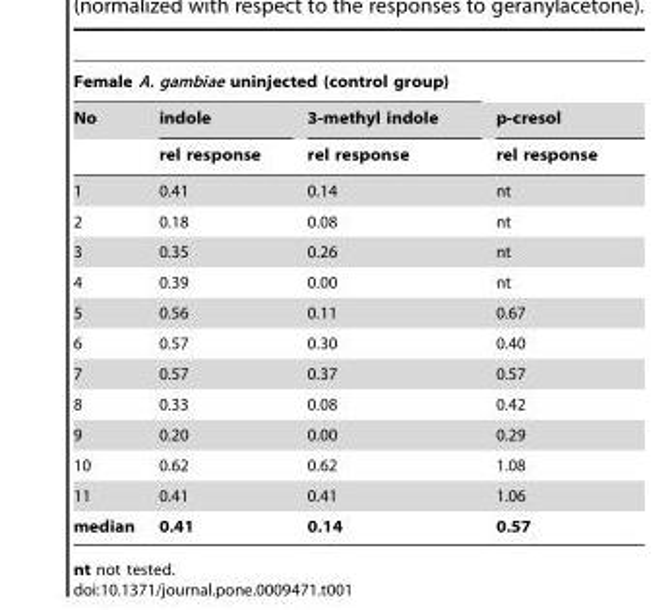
<table><thead><tr><td colspan="3">Female A. gambiae uninjected (control group)</td><td rowspan="3">p-cresol rel response</td></tr><tr><td rowspan="2">No</td><td rowspan="2">indole rel response</td><td rowspan="2">3-methyl indole rel response</td></tr><tr></tr></thead><tbody><tr><td>1</td><td>0.41</td><td>0.14</td><td>nt</td></tr><tr><td>2</td><td>0.18</td><td>0.08</td><td>nt</td></tr><tr><td>3</td><td>0.35</td><td>0.26</td><td>nt</td></tr><tr><td>4</td><td>0.39</td><td>0.00</td><td>nt</td></tr><tr><td>5</td><td>0.56</td><td>0.11</td><td>0.67</td></tr><tr><td>6</td><td>0.57</td><td>0.30</td><td>0.40</td></tr><tr><td>7</td><td>0.57</td><td>0.37</td><td>0.57</td></tr><tr><td>8</td><td>0.33</td><td>0.08</td><td>0.42</td></tr><tr><td>9</td><td>0.20</td><td>0.00</td><td>0.29</td></tr><tr><td>10</td><td>0.62</td><td>0.62</td><td>1.08</td></tr><tr><td>11</td><td>0.41</td><td>0.41</td><td>1.06</td></tr><tr><td>median</td><td>0.41</td><td>0.14</td><td>0.57</td></tr></tbody></table>